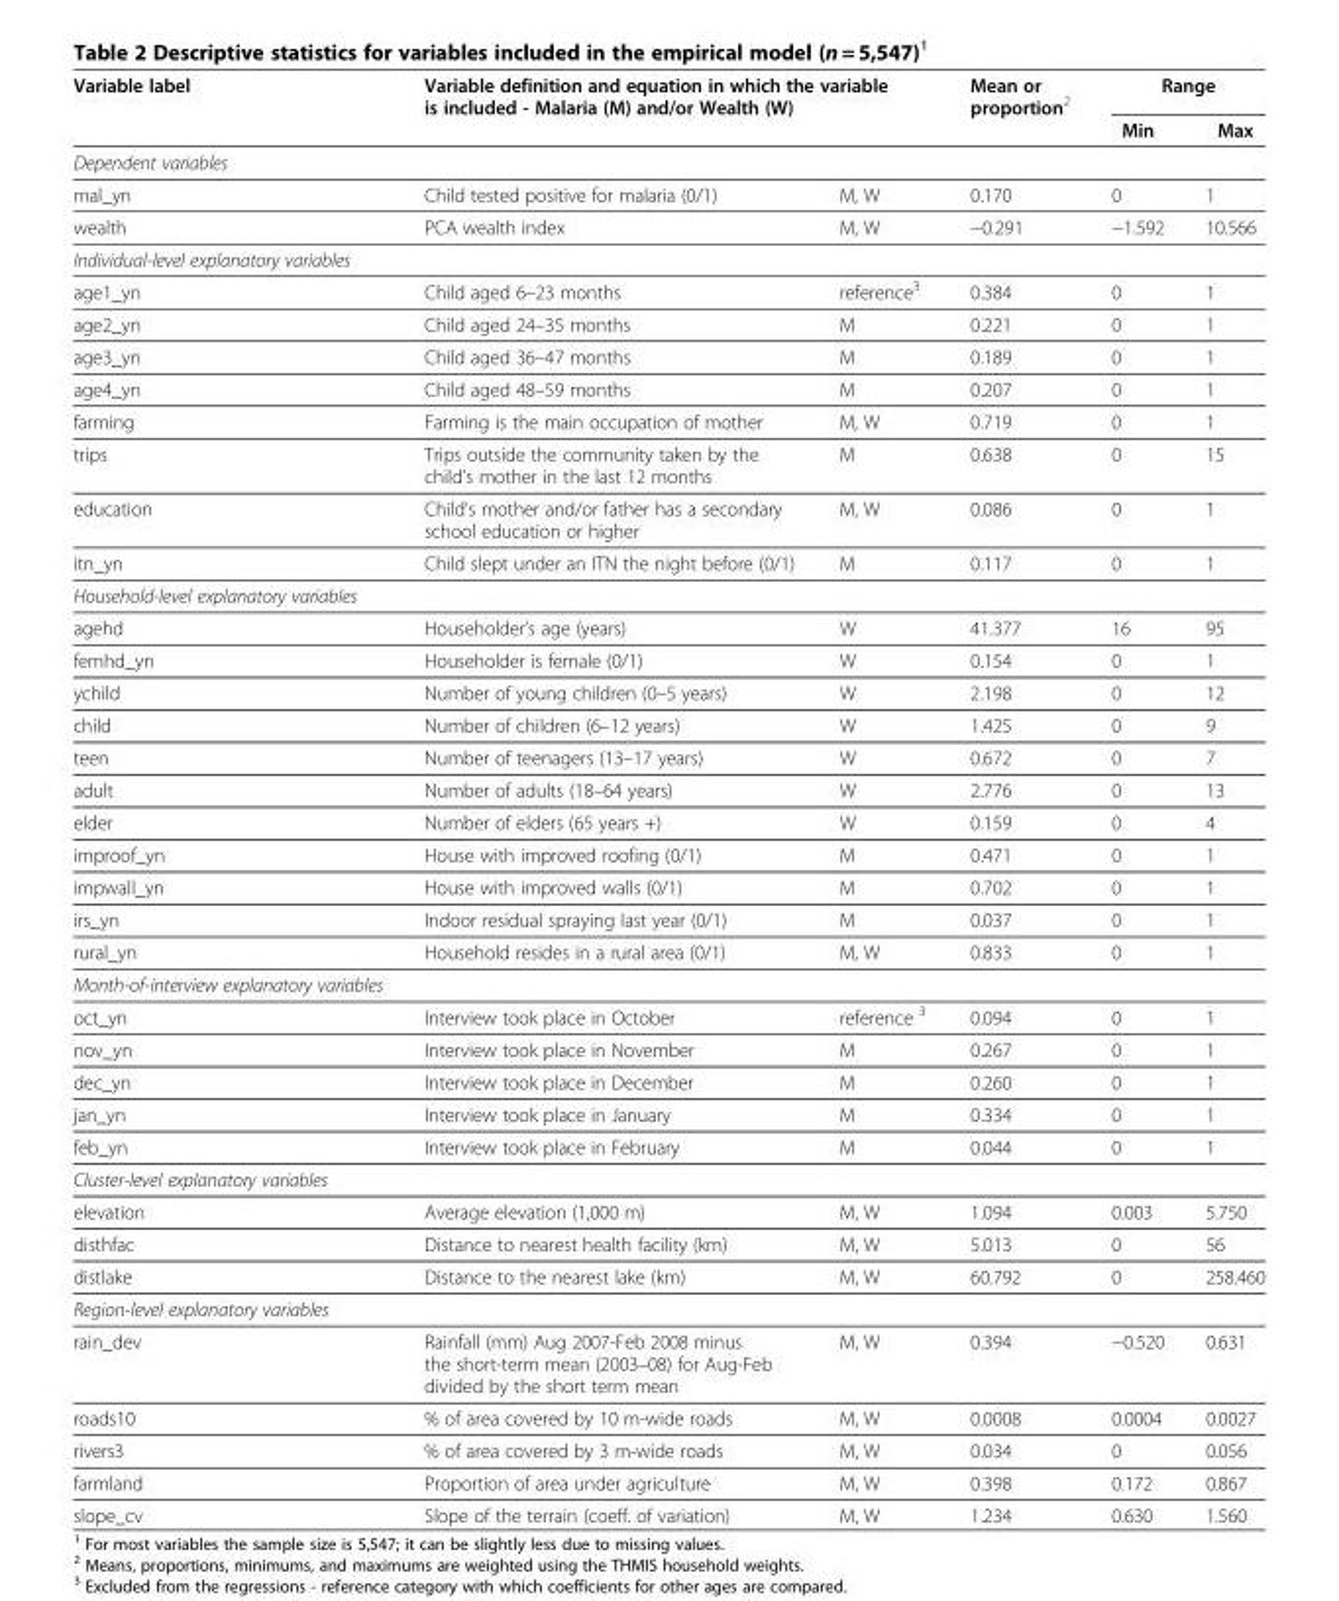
<table><thead><tr><td rowspan="3">Variable label Dependent variables</td><td rowspan="2" colspan="2">Variable definition and equation in which the variable is included - Malaria (M) and/or Wealth (W)</td><td rowspan="3">Mean or proportion<sup>2</sup></td><td colspan="2">Range</td></tr><tr><td rowspan="2">Min</td><td rowspan="2">Max</td></tr><tr><td></td><td></td></tr></thead><tbody><tr><td>mal_yn</td><td>Child tested positive for malaria (0/1)</td><td>M, W</td><td>0.170</td><td>0</td><td>1</td></tr><tr><td>wealth</td><td>PCA wealth index</td><td>M, W</td><td>−0.291</td><td>−1.592</td><td>10.566</td></tr><tr><td colspan="6">Individual-level explanatory variables</td></tr><tr><td>age1_yn</td><td>Child aged 6–23 months</td><td>reference<sup>3</sup></td><td>0.384</td><td>0</td><td>1</td></tr><tr><td>age2_yn</td><td>Child aged 24–35 months</td><td>M</td><td>0.221</td><td>0</td><td>1</td></tr><tr><td>age3_yn</td><td>Child aged 36–47 months</td><td>M</td><td>0.189</td><td>0</td><td>1</td></tr><tr><td>age4_yn</td><td>Child aged 48–59 months</td><td>M</td><td>0.207</td><td>0</td><td>1</td></tr><tr><td>farming</td><td>Farming is the main occupation of mother</td><td>M, W</td><td>0.719</td><td>0</td><td>1</td></tr><tr><td>trips</td><td>Trips outside the community taken by the child’s mother in the last 12 months</td><td>M</td><td>0.638</td><td>0</td><td>15</td></tr><tr><td>education</td><td>Child’s mother and/or father has a secondary school education or higher</td><td>M, W</td><td>0.086</td><td>0</td><td>1</td></tr><tr><td>itn_yn</td><td>Child slept under an ITN the night before (0/1)</td><td>M</td><td>0.117</td><td>0</td><td>1</td></tr><tr><td colspan="6">Household-level explanatory variables</td></tr><tr><td>agehd</td><td>Householder’s age (years)</td><td>W</td><td>41.377</td><td>16</td><td>95</td></tr><tr><td>femhd_yn</td><td>Householder is female (0/1)</td><td>W</td><td>0.154</td><td>0</td><td>1</td></tr><tr><td>ychild</td><td>Number of young children (0–5 years)</td><td>W</td><td>2.198</td><td>0</td><td>12</td></tr><tr><td>child</td><td>Number of children (6–12 years)</td><td>W</td><td>1.425</td><td>0</td><td>9</td></tr><tr><td>teen</td><td>Number of teenagers (13–17 years)</td><td>W</td><td>0.672</td><td>0</td><td>7</td></tr><tr><td>adult</td><td>Number of adults (18–64 years)</td><td>W</td><td>2.776</td><td>0</td><td>13</td></tr><tr><td>elder</td><td>Number of elders (65 years +)</td><td>W</td><td>0.159</td><td>0</td><td>4</td></tr><tr><td>improof_yn</td><td>House with improved roofing (0/1)</td><td>M</td><td>0.471</td><td>0</td><td>1</td></tr><tr><td>impwall_yn</td><td>House with improved walls (0/1)</td><td>M</td><td>0.702</td><td>0</td><td>1</td></tr><tr><td>irs_yn</td><td>Indoor residual spraying last year (0/1)</td><td>M</td><td>0.037</td><td>0</td><td>1</td></tr><tr><td>rural_yn</td><td>Household resides in a rural area (0/1)</td><td>M, W</td><td>0.833</td><td>0</td><td>1</td></tr><tr><td colspan="6">Month-of-interview explanatory variables</td></tr><tr><td>oct_yn</td><td>Interview took place in October</td><td>reference <sup>3</sup></td><td>0.094</td><td>0</td><td>1</td></tr><tr><td>nov_yn</td><td>Interview took place in November</td><td>M</td><td>0.267</td><td>0</td><td>1</td></tr><tr><td>dec_yn</td><td>Interview took place in December</td><td>M</td><td>0.260</td><td>0</td><td>1</td></tr><tr><td>jan_yn</td><td>Interview took place in January</td><td>M</td><td>0.334</td><td>0</td><td>1</td></tr><tr><td>feb_yn</td><td>Interview took place in February</td><td>M</td><td>0.044</td><td>0</td><td>1</td></tr><tr><td colspan="6">Cluster-level explanatory variables</td></tr><tr><td>elevation</td><td>Average elevation (1,000 m)</td><td>M, W</td><td>1.094</td><td>0.003</td><td>5.750</td></tr><tr><td>disthfac</td><td>Distance to nearest health facility (km)</td><td>M, W</td><td>5.013</td><td>0</td><td>56</td></tr><tr><td>distlake</td><td>Distance to the nearest lake (km)</td><td>M, W</td><td>60.792</td><td>0</td><td>258.460</td></tr><tr><td colspan="6">Region-level explanatory variables</td></tr><tr><td>rain_dev</td><td>Rainfall (mm) Aug 2007-Feb 2008 minus the short-term mean (2003–08) for Aug-Feb divided by the short term mean</td><td>M, W</td><td>0.394</td><td>−0.520</td><td>0.631</td></tr><tr><td>roads10</td><td>% of area covered by 10 m-wide roads</td><td>M, W</td><td>0.0008</td><td>0.0004</td><td>0.0027</td></tr><tr><td>rivers3</td><td>% of area covered by 3 m-wide roads</td><td>M, W</td><td>0.034</td><td>0</td><td>0.056</td></tr><tr><td>farmland</td><td>Proportion of area under agriculture</td><td>M, W</td><td>0.398</td><td>0.172</td><td>0.867</td></tr><tr><td>slope_cv</td><td>Slope of the terrain (coeff. of variation)</td><td>M, W</td><td>1.234</td><td>0.630</td><td>1.560</td></tr></tbody></table>